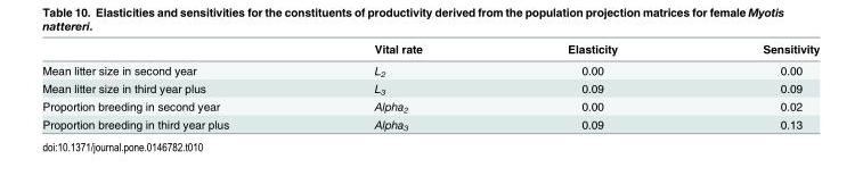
<table><thead><tr><td></td><td>Vital rate</td><td>Elasticity</td><td>Sensitivity</td></tr></thead><tbody><tr><td>Mean litter size in second year</td><td>L<sub>2</sub></td><td>0.00</td><td>0.00</td></tr><tr><td>Mean litter size in third year plus</td><td>L<sub>3</sub></td><td>0.09</td><td>0.09</td></tr><tr><td>Proportion breeding in second year</td><td>Alpha<sub>2</sub></td><td>0.00</td><td>0.02</td></tr><tr><td>Proportion breeding in third year plus</td><td>Alpha<sub>3</sub></td><td>0.09</td><td>0.13</td></tr></tbody></table>